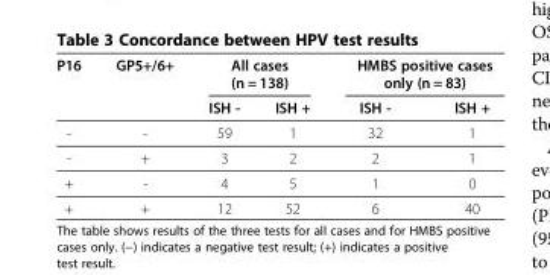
<table><thead><tr><td rowspan="2">P16</td><td rowspan="2">GP5+/6+</td><td colspan="2">All cases (n = 138)</td><td colspan="2">HMBS positive cases only (n = 83)</td></tr><tr><td>ISH -</td><td>ISH +</td><td>ISH -</td><td>ISH +</td></tr></thead><tbody><tr><td>-</td><td>-</td><td>59</td><td>1</td><td>32</td><td>1</td></tr><tr><td>-</td><td>+</td><td>3</td><td>2</td><td>2</td><td>1</td></tr><tr><td>+</td><td>-</td><td>4</td><td>5</td><td>1</td><td>0</td></tr><tr><td>+</td><td>+</td><td>12</td><td>52</td><td>6</td><td>40</td></tr></tbody></table>